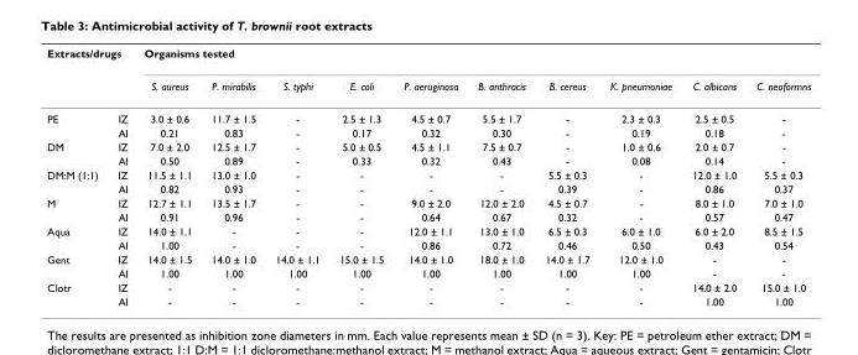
<table><thead><tr><td colspan="2">Extracts/drugs</td><td colspan="10">Organisms tested</td></tr><tr><td></td><td></td><td>S. aureus</td><td>P. mirabilis</td><td>S. typhi</td><td>E. coli</td><td>P. aeruginosa</td><td>B. anthracis</td><td>B. cereus</td><td>K. pneumoniae</td><td>C. albicans</td><td>C. neoformns</td></tr></thead><tbody><tr><td rowspan="2">PE</td><td>IZ</td><td>3.0 ± 0.6</td><td>11.7 ± 1.5</td><td>-</td><td>2.5 ± 1.3</td><td>4.5 ± 0.7</td><td>5.5 ± 1.7</td><td>-</td><td>2.3 ± 0.3</td><td>2.5 ± 0.5</td><td>-</td></tr><tr><td>AI</td><td>0.21</td><td>0.83</td><td>-</td><td>0.17</td><td>0.32</td><td>0.30</td><td>-</td><td>0.19</td><td>0.18</td><td>-</td></tr><tr><td rowspan="2">DM</td><td>IZ</td><td>7.0 ± 2.0</td><td>12.5 ± 1.7</td><td>-</td><td>5.0 ± 0.5</td><td>4.5 ± 1.1</td><td>7.5 ± 0.7</td><td>-</td><td>1.0 ± 0.6</td><td>2.0 ± 0.7</td><td>-</td></tr><tr><td>AI</td><td>0.50</td><td>0.89</td><td>-</td><td>0.33</td><td>0.32</td><td>0.43</td><td>-</td><td>0.08</td><td>0.14</td><td>-</td></tr><tr><td rowspan="2">DM:M (1:1)</td><td>IZ</td><td>11.5 ± 1.1</td><td>13.0 ± 1.0</td><td>-</td><td>-</td><td>-</td><td>-</td><td>5.5 ± 0.3</td><td>-</td><td>12.0 ± 1.0</td><td>5.5 ± 0.3</td></tr><tr><td>AI</td><td>0.82</td><td>0.93</td><td>-</td><td>-</td><td>-</td><td>-</td><td>0.39</td><td>-</td><td>0.86</td><td>0.37</td></tr><tr><td rowspan="2">M</td><td>IZ</td><td>12.7 ± 1.1</td><td>13.5 ± 1.7</td><td>-</td><td>-</td><td>9.0 ± 2.0</td><td>12.0 ± 2.0</td><td>4.5 ± 0.7</td><td>-</td><td>8.0 ± 1.0</td><td>7.0 ± 1.0</td></tr><tr><td>AI</td><td>0.91</td><td>0.96</td><td>-</td><td>-</td><td>0.64</td><td>0.67</td><td>0.32</td><td>-</td><td>0.57</td><td>0.47</td></tr><tr><td rowspan="2">Aqua</td><td>IZ</td><td>14.0 ± 1.1</td><td>-</td><td>-</td><td>-</td><td>12.0 ± 1.1</td><td>13.0 ± 1.0</td><td>6.5 ± 0.3</td><td>6.0 ± 1.0</td><td>6.0 ± 2.0</td><td>8.5 ± 1.5</td></tr><tr><td>AI</td><td>1.00</td><td>-</td><td>-</td><td>-</td><td>0.86</td><td>0.72</td><td>0.46</td><td>0.50</td><td>0.43</td><td>0.54</td></tr><tr><td rowspan="2">Gent</td><td>IZ</td><td>14.0 ± 1.5</td><td>14.0 ± 1.0</td><td>14.0 ± 1.1</td><td>15.0 ± 1.5</td><td>14.0 ± 1.0</td><td>18.0 ± 1.0</td><td>14.0 ± 1.7</td><td>12.0 ± 1.0</td><td>-</td><td>-</td></tr><tr><td>AI</td><td>1.00</td><td>1.00</td><td>1.00</td><td>1.00</td><td>1.00</td><td>1.00</td><td>1.00</td><td>1.00</td><td>-</td><td>-</td></tr><tr><td rowspan="2">Clotr</td><td>IZ</td><td>-</td><td>-</td><td>-</td><td>-</td><td>-</td><td>-</td><td>-</td><td>-</td><td>14.0 ± 2.0</td><td>15.0 ± 1.0</td></tr><tr><td>AI</td><td>-</td><td>-</td><td>-</td><td>-</td><td>-</td><td>-</td><td>-</td><td>-</td><td>1.00</td><td>1.00</td></tr></tbody></table>